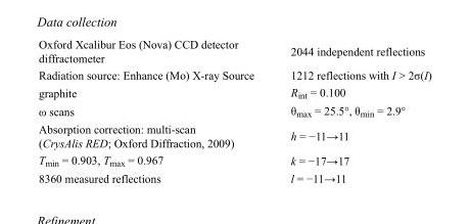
<table><tbody><tr><td>Oxford Xcalibur Eos (Nova) CCD detector diffractometer</td><td>2044 independent reflections</td></tr><tr><td>Radiation source: Enhance (Mo) X-ray Source</td><td>1212 reflections with I &gt; 2σ(I)</td></tr><tr><td>graphite</td><td>R<sub>int</sub> = 0.100</td></tr><tr><td>ω scans</td><td>θ<sub>max</sub> = 25.5°, θ<sub>min</sub> = 2.9°</td></tr><tr><td>Absorption correction: multi-scan (CrysAlis RED; Oxford Diffraction, 2009)</td><td>h = −11→11</td></tr><tr><td>T<sub>min</sub> = 0.903, T<sub>max</sub> = 0.967</td><td>k = −17→17</td></tr><tr><td>8360 measured reflections</td><td>l = −11→11</td></tr></tbody></table>